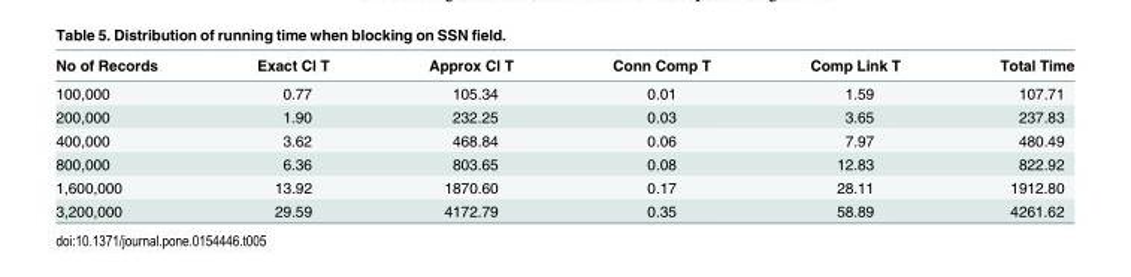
<table><thead><tr><td>No of Records</td><td>Exact Cl T</td><td>Approx Cl T</td><td>Conn Comp T</td><td>Comp Link T</td><td>Total Time</td></tr></thead><tbody><tr><td>100,000</td><td>0.77</td><td>105.34</td><td>0.01</td><td>1.59</td><td>107.71</td></tr><tr><td>200,000</td><td>1.90</td><td>232.25</td><td>0.03</td><td>3.65</td><td>237.83</td></tr><tr><td>400,000</td><td>3.62</td><td>468.84</td><td>0.06</td><td>7.97</td><td>480.49</td></tr><tr><td>800,000</td><td>6.36</td><td>803.65</td><td>0.08</td><td>12.83</td><td>822.92</td></tr><tr><td>1,600,000</td><td>13.92</td><td>1870.60</td><td>0.17</td><td>28.11</td><td>1912.80</td></tr><tr><td>3,200,000</td><td>29.59</td><td>4172.79</td><td>0.35</td><td>58.89</td><td>4261.62</td></tr></tbody></table>